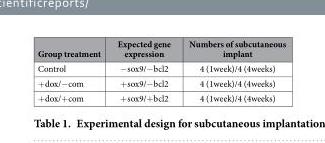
<table><thead><tr><td>Group treatment</td><td>Expected gene expression</td><td>Numbers of subcutaneous implant</td></tr></thead><tbody><tr><td>Control</td><td>− sox9/− bcl2</td><td>4 (1week)/4 (4weeks)</td></tr><tr><td>+ dox/− com</td><td>+ sox9/− bcl2</td><td>4 (1week)/4 (4weeks)</td></tr><tr><td>+ dox/+ com</td><td>+ sox9/+ bcl2</td><td>4 (1week)/4 (4weeks)</td></tr></tbody></table>